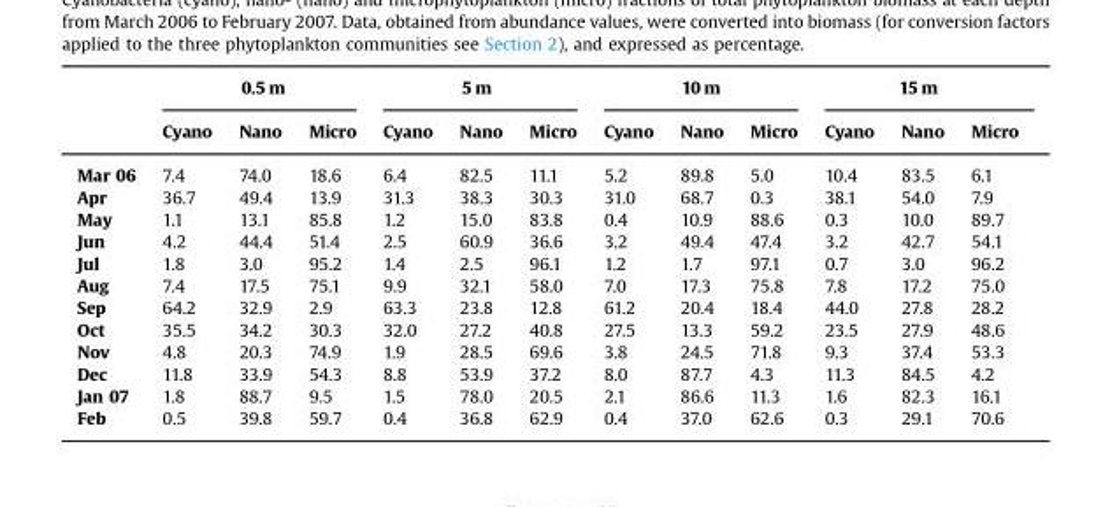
<table><thead><tr><td rowspan="2"></td><td colspan="3">0.5 m</td><td colspan="3">5 m</td><td colspan="3">10 m</td><td colspan="3">15 m</td></tr><tr><td>Cyano</td><td>Nano</td><td>Micro</td><td>Cyano</td><td>Nano</td><td>Micro</td><td>Cyano</td><td>Nano</td><td>Micro</td><td>Cyano</td><td>Nano</td><td>Micro</td></tr></thead><tbody><tr><td>Mar 06</td><td>7.4</td><td>74.0</td><td>18.6</td><td>6.4</td><td>82.5</td><td>11.1</td><td>5.2</td><td>89.8</td><td>5.0</td><td>10.4</td><td>83.5</td><td>6.1</td></tr><tr><td>Apr</td><td>36.7</td><td>49.4</td><td>13.9</td><td>31.3</td><td>38.3</td><td>30.3</td><td>31.0</td><td>68.7</td><td>0.3</td><td>38.1</td><td>54.0</td><td>7.9</td></tr><tr><td>May</td><td>1.1</td><td>13.1</td><td>85.8</td><td>1.2</td><td>15.0</td><td>83.8</td><td>0.4</td><td>10.9</td><td>88.6</td><td>0.3</td><td>10.0</td><td>89.7</td></tr><tr><td>Jun</td><td>4.2</td><td>44.4</td><td>51.4</td><td>2.5</td><td>60.9</td><td>36.6</td><td>3.2</td><td>49.4</td><td>47.4</td><td>3.2</td><td>42.7</td><td>54.1</td></tr><tr><td>Jul</td><td>1.8</td><td>3.0</td><td>95.2</td><td>1.4</td><td>2.5</td><td>96.1</td><td>1.2</td><td>1.7</td><td>97.1</td><td>0.7</td><td>3.0</td><td>96.2</td></tr><tr><td>Aug</td><td>7.4</td><td>17.5</td><td>75.1</td><td>9.9</td><td>32.1</td><td>58.0</td><td>7.0</td><td>17.3</td><td>75.8</td><td>7.8</td><td>17.2</td><td>75.0</td></tr><tr><td>Sep</td><td>64.2</td><td>32.9</td><td>2.9</td><td>63.3</td><td>23.8</td><td>12.8</td><td>61.2</td><td>20.4</td><td>18.4</td><td>44.0</td><td>27.8</td><td>28.2</td></tr><tr><td>Oct</td><td>35.5</td><td>34.2</td><td>30.3</td><td>32.0</td><td>27.2</td><td>40.8</td><td>27.5</td><td>13.3</td><td>59.2</td><td>23.5</td><td>27.9</td><td>48.6</td></tr><tr><td>Nov</td><td>4.8</td><td>20.3</td><td>74.9</td><td>1.9</td><td>28.5</td><td>69.6</td><td>3.8</td><td>24.5</td><td>71.8</td><td>9.3</td><td>37.4</td><td>53.3</td></tr><tr><td>Dec</td><td>11.8</td><td>33.9</td><td>54.3</td><td>8.8</td><td>53.9</td><td>37.2</td><td>8.0</td><td>87.7</td><td>4.3</td><td>11.3</td><td>84.5</td><td>4.2</td></tr><tr><td>Jan 07</td><td>1.8</td><td>88.7</td><td>9.5</td><td>1.5</td><td>78.0</td><td>20.5</td><td>2.1</td><td>86.6</td><td>11.3</td><td>1.6</td><td>82.3</td><td>16.1</td></tr><tr><td>Feb</td><td>0.5</td><td>39.8</td><td>59.7</td><td>0.4</td><td>36.8</td><td>62.9</td><td>0.4</td><td>37.0</td><td>62.6</td><td>0.3</td><td>29.1</td><td>70.6</td></tr></tbody></table>